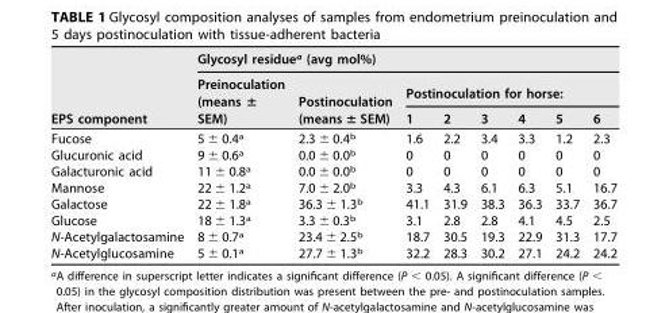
<table><thead><tr><td rowspan="3">EPS component</td><td colspan="8">Glycosyl residue<sup>a</sup> (avg mol%)</td></tr><tr><td rowspan="2">Preinoculation (means ± SEM)</td><td rowspan="2">Postinoculation (means ± SEM)</td><td colspan="6">Postinoculation for horse:</td></tr><tr><td>1</td><td>2</td><td>3</td><td>4</td><td>5</td><td>6</td></tr></thead><tbody><tr><td>Fucose</td><td>5 ± 0.4<sup>a</sup></td><td>2.3 ± 0.4<sup>b</sup></td><td>1.6</td><td>2.2</td><td>3.4</td><td>3.3</td><td>1.2</td><td>2.3</td></tr><tr><td>Glucuronic acid</td><td>9 ± 0.6<sup>a</sup></td><td>0.0 ± 0.0<sup>b</sup></td><td>0</td><td>0</td><td>0</td><td>0</td><td>0</td><td>0</td></tr><tr><td>Galacturonic acid</td><td>11 ± 0.8<sup>a</sup></td><td>0.0 ± 0.0<sup>b</sup></td><td>0</td><td>0</td><td>0</td><td>0</td><td>0</td><td>0</td></tr><tr><td>Mannose</td><td>22 ± 1.2<sup>a</sup></td><td>7.0 ± 2.0<sup>b</sup></td><td>3.3</td><td>4.3</td><td>6.1</td><td>6.3</td><td>5.1</td><td>16.7</td></tr><tr><td>Galactose</td><td>22 ± 1.8<sup>a</sup></td><td>36.3 ± 1.3<sup>b</sup></td><td>41.1</td><td>31.9</td><td>38.3</td><td>36.3</td><td>33.7</td><td>36.7</td></tr><tr><td>Glucose</td><td>18 ± 1.3<sup>a</sup></td><td>3.3 ± 0.3<sup>b</sup></td><td>3.1</td><td>2.8</td><td>2.8</td><td>4.1</td><td>4.5</td><td>2.5</td></tr><tr><td>N-Acetylgalactosamine</td><td>8 ± 0.7<sup>a</sup></td><td>23.4 ± 2.5<sup>b</sup></td><td>18.7</td><td>30.5</td><td>19.3</td><td>22.9</td><td>31.3</td><td>17.7</td></tr><tr><td>N-Acetylglucosamine</td><td>5 ± 0.1<sup>a</sup></td><td>27.7 ± 1.3<sup>b</sup></td><td>32.2</td><td>28.3</td><td>30.2</td><td>27.1</td><td>24.2</td><td>24.2</td></tr></tbody></table>